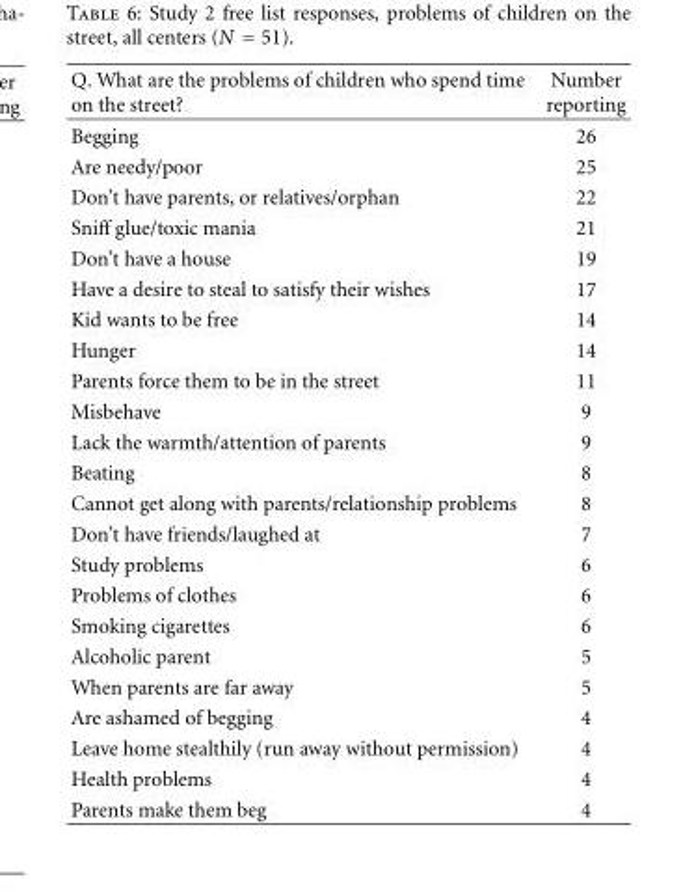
<table><thead><tr><td>Q. What are the problems of children who spend time on the street?</td><td>Number reporting</td></tr></thead><tbody><tr><td>Begging</td><td>26</td></tr><tr><td>Are needy/poor</td><td>25</td></tr><tr><td>Don’t have parents, or relatives/orphan</td><td>22</td></tr><tr><td>Sniff glue/toxic mania</td><td>21</td></tr><tr><td>Don’t have a house</td><td>19</td></tr><tr><td>Have a desire to steal to satisfy their wishes</td><td>17</td></tr><tr><td>Kid wants to be free</td><td>14</td></tr><tr><td>Hunger</td><td>14</td></tr><tr><td>Parents force them to be in the street</td><td>11</td></tr><tr><td>Misbehave</td><td>9</td></tr><tr><td>Lack the warmth/attention of parents</td><td>9</td></tr><tr><td>Beating</td><td>8</td></tr><tr><td>Cannot get along with parents/relationship problems</td><td>8</td></tr><tr><td>Don’t have friends/laughed at</td><td>7</td></tr><tr><td>Study problems</td><td>6</td></tr><tr><td>Problems of clothes</td><td>6</td></tr><tr><td>Smoking cigarettes</td><td>6</td></tr><tr><td>Alcoholic parent</td><td>5</td></tr><tr><td>When parents are far away</td><td>5</td></tr><tr><td>Are ashamed of begging</td><td>4</td></tr><tr><td>Leave home stealthily (run away without permission)</td><td>4</td></tr><tr><td>Health problems</td><td>4</td></tr><tr><td>Parents make them beg</td><td>4</td></tr></tbody></table>